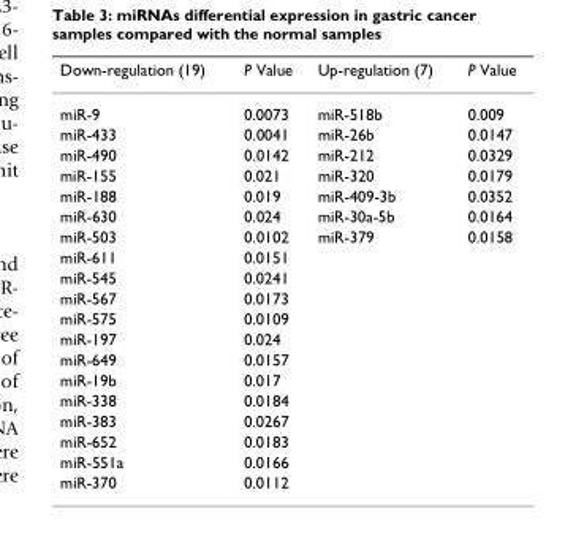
<table><thead><tr><td>Down-regulation (19)</td><td>P Value</td><td>Up-regulation (7)</td><td>P Value</td></tr></thead><tbody><tr><td>miR-9</td><td>0.0073</td><td>miR-518b</td><td>0.009</td></tr><tr><td>miR-433</td><td>0.0041</td><td>miR-26b</td><td>0.0147</td></tr><tr><td>miR-490</td><td>0.0142</td><td>miR-212</td><td>0.0329</td></tr><tr><td>miR-155</td><td>0.021</td><td>miR-320</td><td>0.0179</td></tr><tr><td>miR-188</td><td>0.019</td><td>miR-409-3b</td><td>0.0352</td></tr><tr><td>miR-630</td><td>0.024</td><td>miR-30a-5b</td><td>0.0164</td></tr><tr><td>miR-503</td><td>0.0102</td><td>miR-379</td><td>0.0158</td></tr><tr><td>miR-611</td><td>0.0151</td><td></td><td></td></tr><tr><td>miR-545</td><td>0.0241</td><td></td><td></td></tr><tr><td>miR-567</td><td>0.0173</td><td></td><td></td></tr><tr><td>miR-575</td><td>0.0109</td><td></td><td></td></tr><tr><td>miR-197</td><td>0.024</td><td></td><td></td></tr><tr><td>miR-649</td><td>0.0157</td><td></td><td></td></tr><tr><td>miR-19b</td><td>0.017</td><td></td><td></td></tr><tr><td>miR-338</td><td>0.0184</td><td></td><td></td></tr><tr><td>miR-383</td><td>0.0267</td><td></td><td></td></tr><tr><td>miR-652</td><td>0.0183</td><td></td><td></td></tr><tr><td>miR-551a</td><td>0.0166</td><td></td><td></td></tr><tr><td>miR-370</td><td>0.0112</td><td></td><td></td></tr></tbody></table>